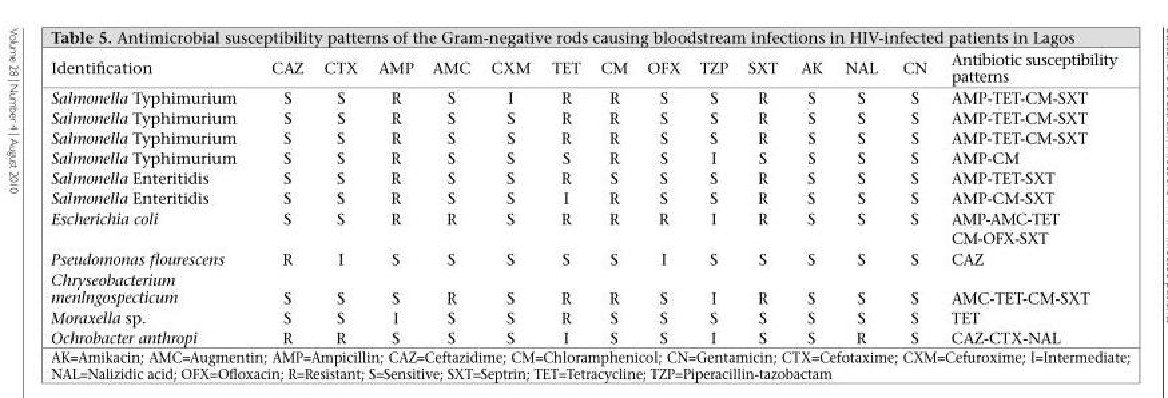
<table><thead><tr><td>Identification</td><td>CAZ</td><td>CTX</td><td>AMP</td><td>AMC</td><td>CXM</td><td>TET</td><td>CM</td><td>OFX</td><td>TZP</td><td>SXT</td><td>AK</td><td>NAL</td><td>CN</td><td>Antibiotic susceptibility patterns</td></tr></thead><tbody><tr><td>Salmonella Typhimurium</td><td>S</td><td>S</td><td>R</td><td>S</td><td>I</td><td>R</td><td>R</td><td>S</td><td>S</td><td>R</td><td>S</td><td>S</td><td>S</td><td>AMP-TET-CM-SXT</td></tr><tr><td>Salmonella Typhimurium</td><td>S</td><td>S</td><td>R</td><td>S</td><td>S</td><td>R</td><td>R</td><td>S</td><td>S</td><td>R</td><td>S</td><td>S</td><td>S</td><td>AMP-TET-CM-SXT</td></tr><tr><td>Salmonella Typhimurium</td><td>S</td><td>S</td><td>R</td><td>S</td><td>S</td><td>R</td><td>R</td><td>S</td><td>S</td><td>R</td><td>S</td><td>S</td><td>S</td><td>AMP-TET-CM-SXT</td></tr><tr><td>Salmonella Typhimurium</td><td>S</td><td>S</td><td>R</td><td>S</td><td>S</td><td>S</td><td>R</td><td>S</td><td>I</td><td>S</td><td>S</td><td>S</td><td>S</td><td>AMP-CM</td></tr><tr><td>Salmonella Enteritidis</td><td>S</td><td>S</td><td>R</td><td>S</td><td>S</td><td>R</td><td>S</td><td>S</td><td>S</td><td>R</td><td>S</td><td>S</td><td>S</td><td>AMP-TET-SXT</td></tr><tr><td>Salmonella Enteritidis</td><td>S</td><td>S</td><td>R</td><td>S</td><td>S</td><td>I</td><td>R</td><td>S</td><td>S</td><td>R</td><td>S</td><td>S</td><td>S</td><td>AMP-CM-SXT</td></tr><tr><td>Escherichia coli</td><td>S</td><td>S</td><td>R</td><td>R</td><td>S</td><td>R</td><td>R</td><td>R</td><td>I</td><td>R</td><td>S</td><td>S</td><td>S</td><td>AMP-AMC-TET CM-OFX-SXT</td></tr><tr><td>Pseudomonas flourescens</td><td>R</td><td>I</td><td>S</td><td>S</td><td>S</td><td>S</td><td>S</td><td>I</td><td>S</td><td>S</td><td>S</td><td>S</td><td>S</td><td>CAZ</td></tr><tr><td>Chryseobacterium menlngospecticum</td><td>S</td><td>S</td><td>S</td><td>R</td><td>S</td><td>R</td><td>R</td><td>S</td><td>I</td><td>R</td><td>S</td><td>S</td><td>S</td><td>AMC-TET-CM-SXT</td></tr><tr><td>Moraxella sp.</td><td>S</td><td>S</td><td>I</td><td>S</td><td>S</td><td>R</td><td>S</td><td>S</td><td>S</td><td>S</td><td>S</td><td>S</td><td>S</td><td>TET</td></tr><tr><td>Ochrobacter anthropi</td><td>R</td><td>R</td><td>S</td><td>S</td><td>S</td><td>I</td><td>S</td><td>S</td><td>I</td><td>S</td><td>S</td><td>R</td><td>S</td><td>CAZ-CTX-NAL</td></tr></tbody></table>